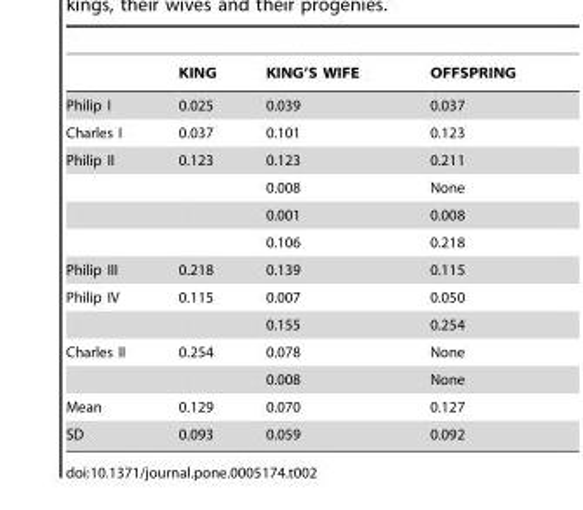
<table><thead><tr><td></td><td>KING</td><td>KING’S WIFE</td><td>OFFSPRING</td></tr></thead><tbody><tr><td>Philip I</td><td>0.025</td><td>0.039</td><td>0.037</td></tr><tr><td>Charles I</td><td>0.037</td><td>0.101</td><td>0.123</td></tr><tr><td rowspan="4">Philip II</td><td>0.123</td><td>0.123</td><td>0.211</td></tr><tr><td></td><td>0.008</td><td>None</td></tr><tr><td></td><td>0.001</td><td>0.008</td></tr><tr><td></td><td>0.106</td><td>0.218</td></tr><tr><td>Philip III</td><td>0.218</td><td>0.139</td><td>0.115</td></tr><tr><td rowspan="2">Philip IV</td><td>0.115</td><td>0.007</td><td>0.050</td></tr><tr><td></td><td>0.155</td><td>0.254</td></tr><tr><td rowspan="2">Charles II</td><td>0.254</td><td>0.078</td><td>None</td></tr><tr><td></td><td>0.008</td><td>None</td></tr><tr><td>Mean</td><td>0.129</td><td>0.070</td><td>0.127</td></tr><tr><td>SD</td><td>0.093</td><td>0.059</td><td>0.092</td></tr></tbody></table>